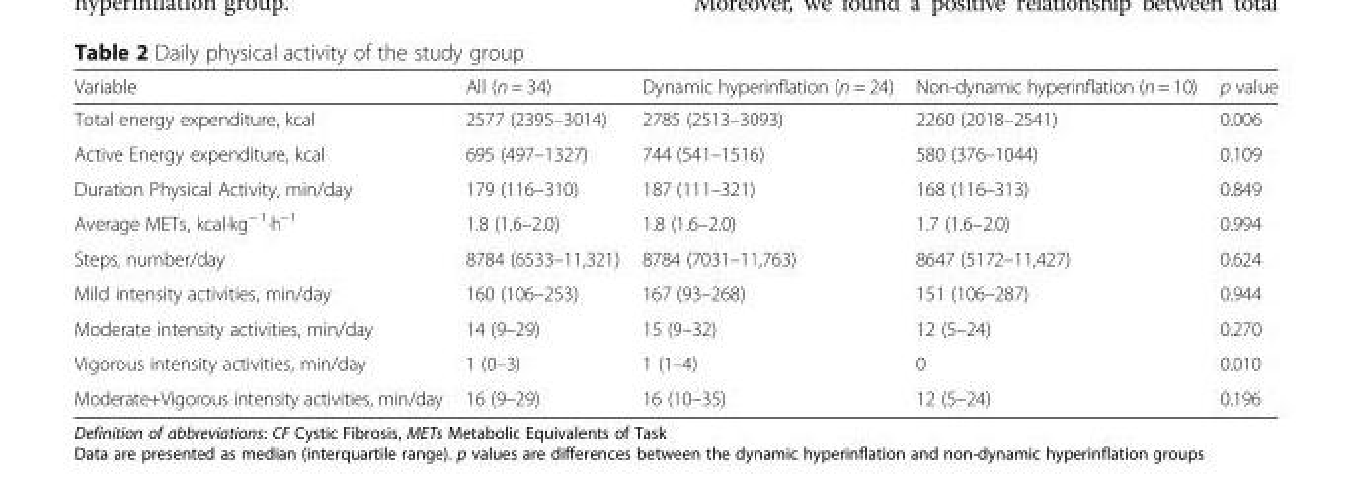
<table><thead><tr><td>Variable</td><td>All (n = 34)</td><td>Dynamic hyperinflation (n = 24)</td><td>Non-dynamic hyperinflation (n = 10)</td><td>p value</td></tr></thead><tbody><tr><td>Total energy expenditure, kcal</td><td>2577 (2395–3014)</td><td>2785 (2513–3093)</td><td>2260 (2018–2541)</td><td>0.006</td></tr><tr><td>Active Energy expenditure, kcal</td><td>695 (497–1327)</td><td>744 (541–1516)</td><td>580 (376–1044)</td><td>0.109</td></tr><tr><td>Duration Physical Activity, min/day</td><td>179 (116–310)</td><td>187 (111–321)</td><td>168 (116–313)</td><td>0.849</td></tr><tr><td>Average METs, kcal·kg<sup>− 1</sup>·h<sup>−1</sup></td><td>1.8 (1.6–2.0)</td><td>1.8 (1.6–2.0)</td><td>1.7 (1.6–2.0)</td><td>0.994</td></tr><tr><td>Steps, number/day</td><td>8784 (6533–11,321)</td><td>8784 (7031–11,763)</td><td>8647 (5172–11,427)</td><td>0.624</td></tr><tr><td>Mild intensity activities, min/day</td><td>160 (106–253)</td><td>167 (93–268)</td><td>151 (106–287)</td><td>0.944</td></tr><tr><td>Moderate intensity activities, min/day</td><td>14 (9–29)</td><td>15 (9–32)</td><td>12 (5–24)</td><td>0.270</td></tr><tr><td>Vigorous intensity activities, min/day</td><td>1 (0–3)</td><td>1 (1–4)</td><td>0</td><td>0.010</td></tr><tr><td>Moderate+Vigorous intensity activities, min/day</td><td>16 (9–29)</td><td>16 (10–35)</td><td>12 (5–24)</td><td>0.196</td></tr></tbody></table>